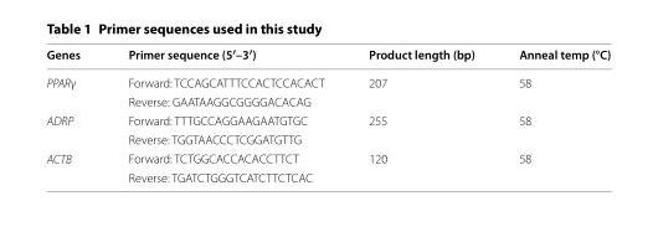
<table><thead><tr><td>Genes</td><td>Primer sequence (5′–3′)</td><td>Product length (bp)</td><td>Anneal temp (°C)</td></tr></thead><tbody><tr><td rowspan="2">PPARγ</td><td>Forward: TCCAGCATTTCCACTCCACACT</td><td>207</td><td>58</td></tr><tr><td>Reverse: GAATAAGGCGGGGACACAG</td><td></td><td></td></tr><tr><td rowspan="2">ADRP</td><td>Forward: TTTGCCAGGAAGAATGTGC</td><td>255</td><td>58</td></tr><tr><td>Reverse: TGGTAACCCTCGGATGTTG</td><td></td><td></td></tr><tr><td rowspan="2">ACTB</td><td>Forward: TCTGGCACCACACCTTCT</td><td>120</td><td>58</td></tr><tr><td>Reverse: TGATCTGGGTCATCTTCTCAC</td><td></td><td></td></tr></tbody></table>